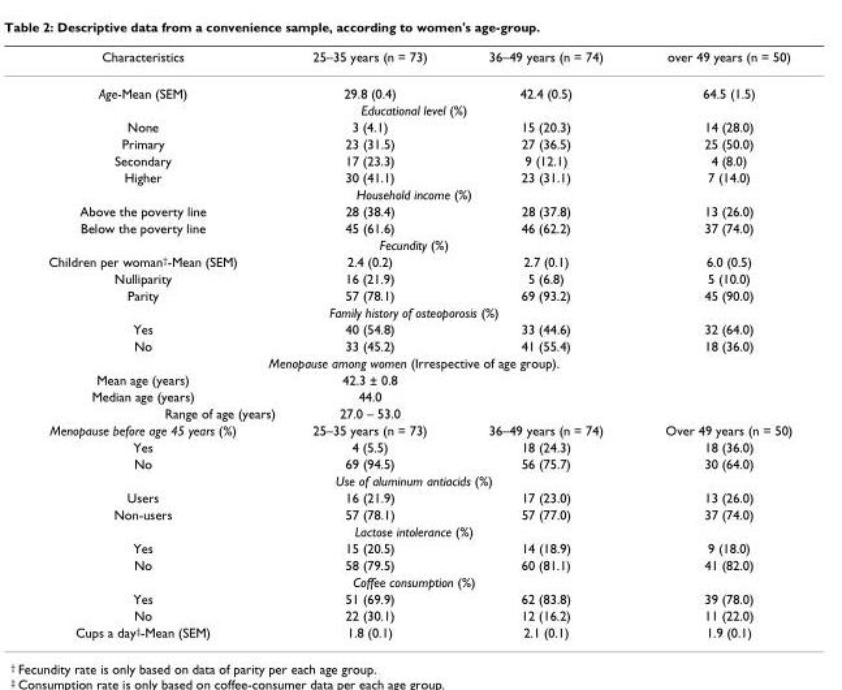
<table><thead><tr><td>Characteristics</td><td>25–35 years (n = 73)</td><td>36–49 years (n = 74)</td><td>over 49 years (n = 50)</td></tr></thead><tbody><tr><td>Age-Mean (SEM)</td><td>29.8 (0.4)</td><td>42.4 (0.5)</td><td>64.5 (1.5)</td></tr><tr><td colspan="4">Educational level (%)</td></tr><tr><td>None</td><td>3 (4.1)</td><td>15 (20.3)</td><td>14 (28.0)</td></tr><tr><td>Primary</td><td>23 (31.5)</td><td>27 (36.5)</td><td>25 (50.0)</td></tr><tr><td>Secondary</td><td>17 (23.3)</td><td>9 (12.1)</td><td>4 (8.0)</td></tr><tr><td>Higher</td><td>30 (41.1)</td><td>23 (31.1)</td><td>7 (14.0)</td></tr><tr><td colspan="4">Household income (%)</td></tr><tr><td>Above the poverty line</td><td>28 (38.4)</td><td>28 (37.8)</td><td>13 (26.0)</td></tr><tr><td>Below the poverty line</td><td>45 (61.6)</td><td>46 (62.2)</td><td>37 (74.0)</td></tr><tr><td colspan="4">Fecundity (%)</td></tr><tr><td>Children per woman†-Mean (SEM)</td><td>2.4 (0.2)</td><td>2.7 (0.1)</td><td>6.0 (0.5)</td></tr><tr><td>Nulliparity</td><td>16 (21.9)</td><td>5 (6.8)</td><td>5 (10.0)</td></tr><tr><td>Parity</td><td>57 (78.1)</td><td>69 (93.2)</td><td>45 (90.0)</td></tr><tr><td colspan="4">Family history of osteoporosis (%)</td></tr><tr><td>Yes</td><td>40 (54.8)</td><td>33 (44.6)</td><td>32 (64.0)</td></tr><tr><td>No</td><td>33 (45.2)</td><td>41 (55.4)</td><td>18 (36.0)</td></tr><tr><td colspan="4">Menopause among women (Irrespective of age group).</td></tr><tr><td>Mean age (years)</td><td>42.3 ± 0.8</td><td></td><td></td></tr><tr><td>Median age (years)</td><td>44.0</td><td></td><td></td></tr><tr><td>Range of age (years)</td><td>27.0 – 53.0</td><td></td><td></td></tr><tr><td>Menopause before age 45 years (%)</td><td>25–35 years (n = 73)</td><td>36–49 years (n = 74)</td><td>Over 49 years (n = 50)</td></tr><tr><td>Yes</td><td>4 (5.5)</td><td>18 (24.3)</td><td>18 (36.0)</td></tr><tr><td>No</td><td>69 (94.5)</td><td>56 (75.7)</td><td>30 (64.0)</td></tr><tr><td colspan="4">Use of aluminum antiacids (%)</td></tr><tr><td>Users</td><td>16 (21.9)</td><td>17 (23.0)</td><td>13 (26.0)</td></tr><tr><td>Non-users</td><td>57 (78.1)</td><td>57 (77.0)</td><td>37 (74.0)</td></tr><tr><td colspan="4">Lactose intolerance (%)</td></tr><tr><td>Yes</td><td>15 (20.5)</td><td>14 (18.9)</td><td>9 (18.0)</td></tr><tr><td>No</td><td>58 (79.5)</td><td>60 (81.1)</td><td>41 (82.0)</td></tr><tr><td colspan="4">Coffee consumption (%)</td></tr><tr><td>Yes</td><td>51 (69.9)</td><td>62 (83.8)</td><td>39 (78.0)</td></tr><tr><td>No</td><td>22 (30.1)</td><td>12 (16.2)</td><td>11 (22.0)</td></tr><tr><td>Cups a day‡-Mean (SEM)</td><td>1.8 (0.1)</td><td>2.1 (0.1)</td><td>1.9 (0.1)</td></tr></tbody></table>